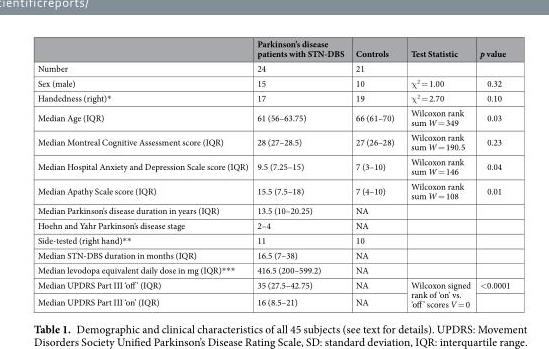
<table><thead><tr><td></td><td>Parkinson’s disease patients with STN-DBS</td><td>Controls</td><td>Test Statistic</td><td>p value</td></tr></thead><tbody><tr><td>Number</td><td>24</td><td>21</td><td></td><td></td></tr><tr><td>Sex (male)</td><td>15</td><td>10</td><td>χ<sup>2</sup> = 1.00</td><td>0.32</td></tr><tr><td>Handedness (right)*</td><td>17</td><td>19</td><td>χ<sup>2</sup> = 2.70</td><td>0.10</td></tr><tr><td>Median Age (IQR)</td><td>61 (56–63.75)</td><td>66 (61–70)</td><td>Wilcoxon rank sum W = 349</td><td>0.03</td></tr><tr><td>Median Montreal Cognitive Assessment score (IQR)</td><td>28 (27–28.5)</td><td>27 (26–28)</td><td>Wilcoxon rank sum W = 190.5</td><td>0.23</td></tr><tr><td>Median Hospital Anxiety and Depression Scale score (IQR)</td><td>9.5 (7.25–15)</td><td>7 (3–10)</td><td>Wilcoxon rank sum W = 146</td><td>0.04</td></tr><tr><td>Median Apathy Scale score (IQR)</td><td>15.5 (7.5–18)</td><td>7 (4–10)</td><td>Wilcoxon rank sum W = 108</td><td>0.01</td></tr><tr><td>Median Parkinson’s disease duration in years (IQR)</td><td>13.5 (10–20.25)</td><td>NA</td><td></td><td></td></tr><tr><td>Hoehn and Yahr Parkinson’s disease stage</td><td>2–4</td><td>NA</td><td></td><td></td></tr><tr><td>Side-tested (right hand)**</td><td>11</td><td>10</td><td></td><td></td></tr><tr><td>Median STN-DBS duration in months (IQR)</td><td>16.5 (7–38)</td><td>NA</td><td></td><td></td></tr><tr><td>Median levodopa equivalent daily dose in mg (IQR)***</td><td>416.5 (200–599.2)</td><td>NA</td><td></td><td></td></tr><tr><td>Median UPDRS Part III ‘off’ (IQR)</td><td>35 (27.5–42.75)</td><td>NA</td><td rowspan="2">Wilcoxon signed rank of ‘on’ vs. ‘off’ scores V = 0</td><td>&lt;0.0001</td></tr><tr><td>Median UPDRS Part III ‘on’ (IQR)</td><td>16 (8.5–21)</td><td>NA</td><td></td></tr></tbody></table>